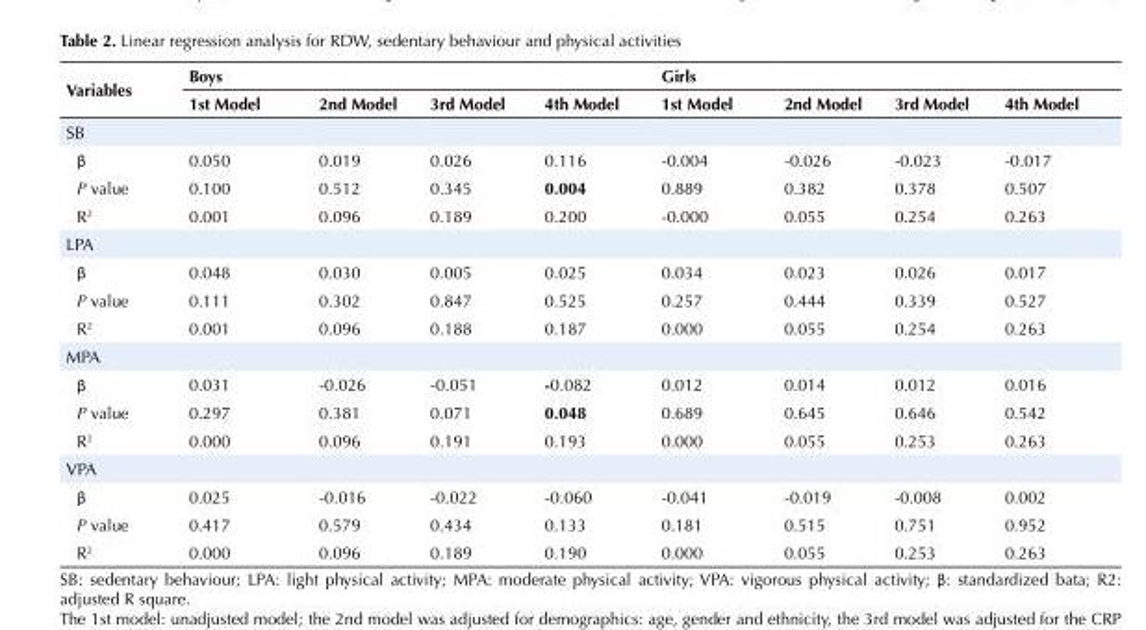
<table><tbody><tr><td rowspan="2">Variables</td><td colspan="4">Boys</td><td colspan="4">Girls</td></tr><tr><td>1st Model</td><td>2nd Model</td><td>3rd Model</td><td>4th Model</td><td>1st Model</td><td>2nd Model</td><td>3rd Model</td><td>4th Model</td></tr><tr><td colspan="9">SB</td></tr><tr><td>β</td><td>0.050</td><td>0.019</td><td>0.026</td><td>0.116</td><td>-0.004</td><td>-0.026</td><td>-0.023</td><td>-0.017</td></tr><tr><td>P value</td><td>0.100</td><td>0.512</td><td>0.345</td><td>0.004</td><td>0.889</td><td>0.382</td><td>0.378</td><td>0.507</td></tr><tr><td>R<sup>2</sup></td><td>0.001</td><td>0.096</td><td>0.189</td><td>0.200</td><td>-0.000</td><td>0.055</td><td>0.254</td><td>0.263</td></tr><tr><td colspan="9">LPA</td></tr><tr><td>β</td><td>0.048</td><td>0.030</td><td>0.005</td><td>0.025</td><td>0.034</td><td>0.023</td><td>0.026</td><td>0.017</td></tr><tr><td>P value</td><td>0.111</td><td>0.302</td><td>0.847</td><td>0.525</td><td>0.257</td><td>0.444</td><td>0.339</td><td>0.527</td></tr><tr><td>R<sup>2</sup></td><td>0.001</td><td>0.096</td><td>0.188</td><td>0.187</td><td>0.000</td><td>0.055</td><td>0.254</td><td>0.263</td></tr><tr><td colspan="9">MPA</td></tr><tr><td>β</td><td>0.031</td><td>-0.026</td><td>-0.051</td><td>-0.082</td><td>0.012</td><td>0.014</td><td>0.012</td><td>0.016</td></tr><tr><td>P value</td><td>0.297</td><td>0.381</td><td>0.071</td><td>0.048</td><td>0.689</td><td>0.645</td><td>0.646</td><td>0.542</td></tr><tr><td>R<sup>2</sup></td><td>0.000</td><td>0.096</td><td>0.191</td><td>0.193</td><td>0.000</td><td>0.055</td><td>0.253</td><td>0.263</td></tr><tr><td colspan="9">VPA</td></tr><tr><td>β</td><td>0.025</td><td>-0.016</td><td>-0.022</td><td>-0.060</td><td>-0.041</td><td>-0.019</td><td>-0.008</td><td>0.002</td></tr><tr><td>P value</td><td>0.417</td><td>0.579</td><td>0.434</td><td>0.133</td><td>0.181</td><td>0.515</td><td>0.751</td><td>0.952</td></tr><tr><td>R<sup>2</sup></td><td>0.000</td><td>0.096</td><td>0.189</td><td>0.190</td><td>0.000</td><td>0.055</td><td>0.253</td><td>0.263</td></tr></tbody></table>